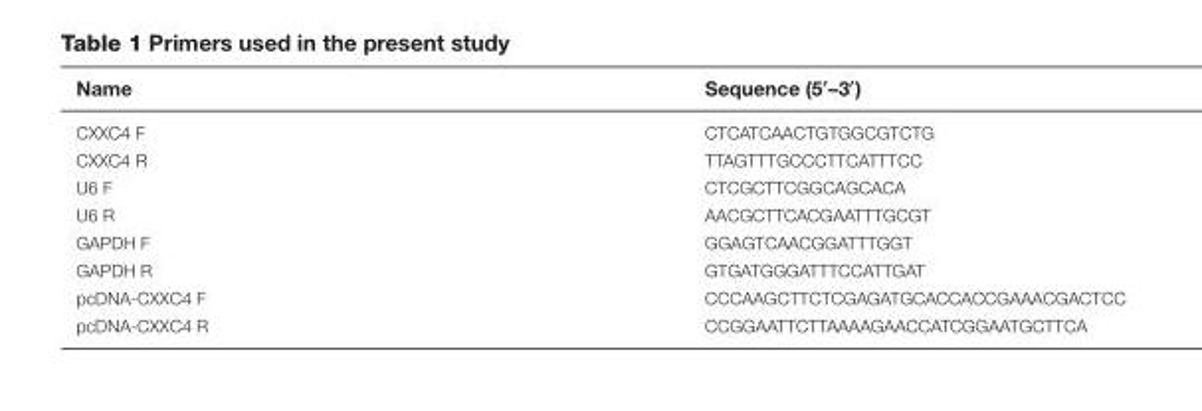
<table><thead><tr><td>Name</td><td>Sequence (5′–3′)</td></tr></thead><tbody><tr><td>CXXC4 F</td><td>CTCATCAACTGTGGCGTCTG</td></tr><tr><td>CXXC4 R</td><td>TTAGTTTGCCCTTCATTTCC</td></tr><tr><td>U6 F</td><td>CTCGCTTCGGCAGCACA</td></tr><tr><td>U6 R</td><td>AACGCTTCACGAATTTGCGT</td></tr><tr><td>GAPDH F</td><td>GGAGTCAACGGATTTGGT</td></tr><tr><td>GAPDH R</td><td>GTGATGGGATTTCCATTGAT</td></tr><tr><td>pcDNA-CXXC4 F</td><td>CCCAAGCTTCTCGAGATGCACCACCGAAACGACTCC</td></tr><tr><td>pcDNA-CXXC4 R</td><td>CCGGAATTCTTAAAAGAACCATCGGAATGCTTCA</td></tr></tbody></table>